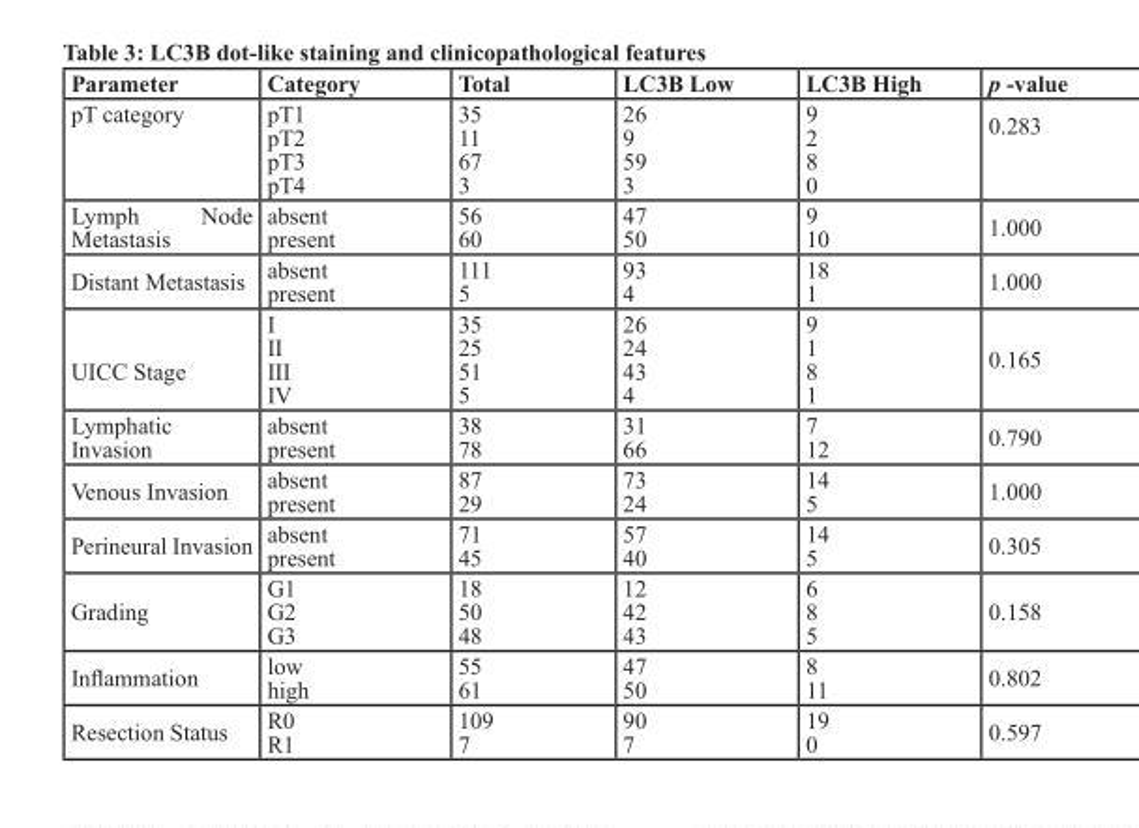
<table><thead><tr><td>Parameter</td><td>category</td><td>total</td><td>lc3b low</td><td>lc3b High</td><td>p -value</td></tr></thead><tbody><tr><td>pT category</td><td>pT1 pT2 pT3 pT4</td><td>35 11 67 3</td><td>26 9 59 3</td><td>9 2 8 0</td><td>0.283</td></tr><tr><td>Lymph Node Metastasis</td><td>absent present</td><td>56 60</td><td>47 50</td><td>9 10</td><td>1.000</td></tr><tr><td>Distant Metastasis</td><td>absent present</td><td>111 5</td><td>93 4</td><td>18 1</td><td>1.000</td></tr><tr><td>UICC Stage</td><td>I II III IV</td><td>35 25 51 5</td><td>26 24 43 4</td><td>9 1 8 1</td><td>0.165</td></tr><tr><td>Lymphatic Invasion</td><td>absent present</td><td>38 78</td><td>31 66</td><td>7 12</td><td>0.790</td></tr><tr><td>Venous Invasion</td><td>absent present</td><td>87 29</td><td>73 24</td><td>14 5</td><td>1.000</td></tr><tr><td>Perineural Invasion</td><td>absent present</td><td>71 45</td><td>57 40</td><td>14 5</td><td>0.305</td></tr><tr><td>Grading</td><td>G1 G2 G3</td><td>18 50 48</td><td>12 42 43</td><td>6 8 5</td><td>0.158</td></tr><tr><td>Inflammation</td><td>low high</td><td>55 61</td><td>47 50</td><td>8 11</td><td>0.802</td></tr><tr><td>Resection Status</td><td>R0 R1</td><td>109 7</td><td>90 7</td><td>19 0</td><td>0.597</td></tr></tbody></table>